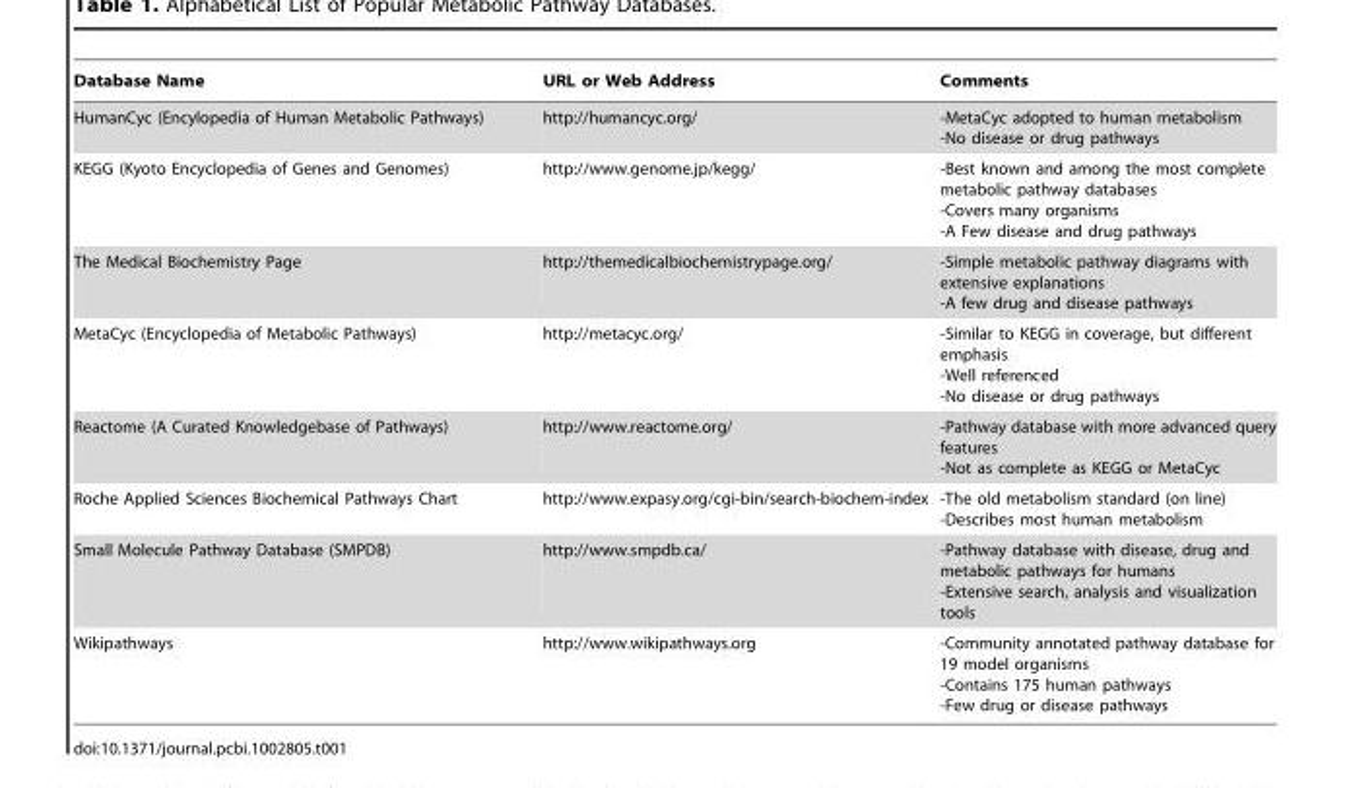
<table><thead><tr><td>Database Name</td><td>URL or Web Address</td><td>Comments</td></tr></thead><tbody><tr><td>HumanCyc (Encylopedia of Human Metabolic Pathways)</td><td>http://humancyc.org/</td><td>-MetaCyc adopted to human metabolism -No disease or drug pathways</td></tr><tr><td>KEGG (Kyoto Encyclopedia of Genes and Genomes)</td><td>http://www.genome.jp/kegg/</td><td>-Best known and among the most complete metabolic pathway databases -Covers many organisms -A Few disease and drug pathways</td></tr><tr><td>The Medical Biochemistry Page</td><td>http://themedicalbiochemistrypage.org/</td><td>-Simple metabolic pathway diagrams with extensive explanations -A few drug and disease pathways</td></tr><tr><td>MetaCyc (Encyclopedia of Metabolic Pathways)</td><td>http://metacyc.org/</td><td>-Similar to KEGG in coverage, but different emphasis -Well referenced -No disease or drug pathways</td></tr><tr><td>Reactome (A Curated Knowledgebase of Pathways)</td><td>http://www.reactome.org/</td><td>-Pathway database with more advanced query features -Not as complete as KEGG or MetaCyc</td></tr><tr><td>Roche Applied Sciences Biochemical Pathways Chart</td><td>http://www.expasy.org/cgi-bin/search-biochem-index</td><td>-The old metabolism standard (on line) -Describes most human metabolism</td></tr><tr><td>Small Molecule Pathway Database (SMPDB)</td><td>http://www.smpdb.ca/</td><td>-Pathway database with disease, drug and metabolic pathways for humans -Extensive search, analysis and visualization tools</td></tr><tr><td>Wikipathways</td><td>http://www.wikipathways.org</td><td>-Community annotated pathway database for 19 model organisms -Contains 175 human pathways -Few drug or disease pathways</td></tr></tbody></table>